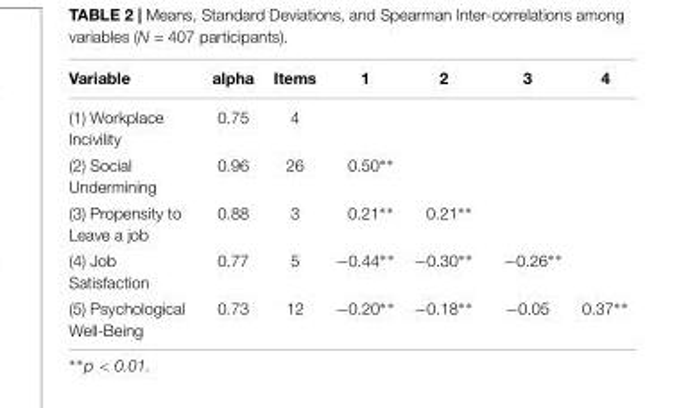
<table><thead><tr><td>Variable</td><td>alpha</td><td>Items</td><td>1</td><td>2</td><td>3</td><td>4</td></tr></thead><tbody><tr><td>(1) Workplace Incivility</td><td>0.75</td><td>4</td><td></td><td></td><td></td><td></td></tr><tr><td>(2) Social Undermining</td><td>0.96</td><td>26</td><td>0.50∗∗</td><td></td><td></td><td></td></tr><tr><td>(3) Propensity to Leave a job</td><td>0.88</td><td>3</td><td>0.21∗∗</td><td>0.21∗∗</td><td></td><td></td></tr><tr><td>(4) Job Satisfaction</td><td>0.77</td><td>5</td><td>−0.44∗∗</td><td>−0.30∗∗</td><td>−0.26∗∗</td><td></td></tr><tr><td>(5) Psychological Well-Being</td><td>0.73</td><td>12</td><td>−0.20∗∗</td><td>−0.18∗∗</td><td>−0.05</td><td>0.37∗∗</td></tr></tbody></table>